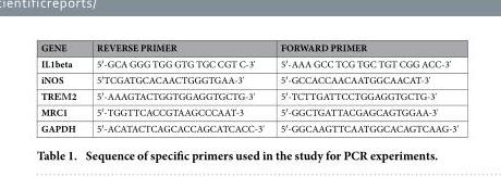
<table><thead><tr><td>GENE</td><td>REVERSE PRIMER</td><td>FORWARD PRIMER</td></tr></thead><tbody><tr><td>IL1beta</td><td>5′ -GCA GGG TGG GTG TGC CGT C-3&#x27;</td><td>5′ -AAA GCC TCG TGC TGT CGG ACC-3&#x27;</td></tr><tr><td>iNOS</td><td>5′ TCGATGCACAACTGGGTGAA-3&#x27;</td><td>5′ -GCCACCAACAATGGCAACAT-3&#x27;</td></tr><tr><td>TRΕ Μ 2</td><td>5′ -AAAGTACTGGTGGAGGTGCTG-3&#x27;</td><td>5′ -TCTTGATTCCTGGAGGTGCTG-3&#x27;</td></tr><tr><td>MRC1</td><td>5′ -TGGTTCACCGTAAGCCCAAT-3</td><td>5′ -GGCTGATTACGAGCAGTGGAA-3&#x27;</td></tr><tr><td>GAPDH</td><td>5′ -ACATACTCAGCACCAGCATCACC-3&#x27;</td><td>5′ -GGCAAGTTCAATGGCACAGTCAAG-3&#x27;</td></tr></tbody></table>